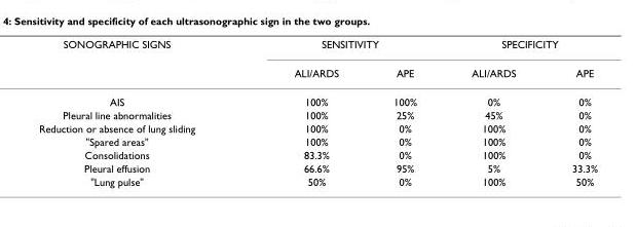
<table><thead><tr><td rowspan="2">SONOGRAPHIC SIGNS</td><td colspan="2">SENSITIVITY</td><td colspan="2">SPECIFICITY</td></tr><tr><td>ALI/ARDS</td><td>APE</td><td>ALI/ARDS</td><td>APE</td></tr></thead><tbody><tr><td>AIS</td><td>100%</td><td>100%</td><td>0%</td><td>0%</td></tr><tr><td>Pleural line abnormalities</td><td>100%</td><td>25%</td><td>45%</td><td>0%</td></tr><tr><td>Reduction or absence of lung sliding</td><td>100%</td><td>0%</td><td>100%</td><td>0%</td></tr><tr><td>&quot;Spared areas&quot;</td><td>100%</td><td>0%</td><td>100%</td><td>0%</td></tr><tr><td>Consolidations</td><td>83.3%</td><td>0%</td><td>100%</td><td>0%</td></tr><tr><td>Pleural effusion</td><td>66.6%</td><td>95%</td><td>5%</td><td>33.3%</td></tr><tr><td>&quot;Lung pulse&quot;</td><td>50%</td><td>0%</td><td>100%</td><td>50%</td></tr></tbody></table>